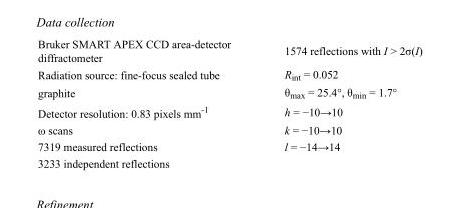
<table><tbody><tr><td>Bruker SMART APEX CCD area-detector diffractometer</td><td>1574 reflections with I &gt; 2σ(I)</td></tr><tr><td>Radiation source: fine-focus sealed tube</td><td>R<sub>int</sub> = 0.052</td></tr><tr><td>graphite</td><td>θ<sub>max</sub> = 25.4°, θ<sub>min</sub> = 1.7°</td></tr><tr><td>Detector resolution: 0.83 pixels mm<sup>-1</sup></td><td>h = −10→10</td></tr><tr><td>ω scans</td><td>k = −10→10</td></tr><tr><td>7319 measured reflections</td><td>l = −14→14</td></tr><tr><td>3233 independent reflections</td><td></td></tr></tbody></table>